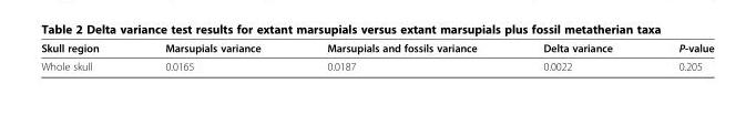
<table><thead><tr><td>Skull region</td><td>Marsupials variance</td><td>Marsupials and fossils variance</td><td>Delta variance</td><td>P-value</td></tr></thead><tbody><tr><td>Whole skull</td><td>0.0165</td><td>0.0187</td><td>0.0022</td><td>0.205</td></tr></tbody></table>